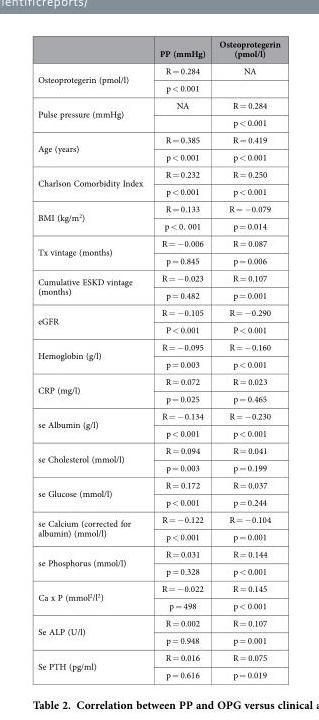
<table><thead><tr><td></td><td>PP (mmHg)</td><td>Osteoprotegerin (pmol/l)</td></tr></thead><tbody><tr><td rowspan="2">Osteoprotegerin (pmol/l)</td><td>R = 0.284</td><td>NA</td></tr><tr><td>p &lt; 0.001</td><td></td></tr><tr><td rowspan="2">Pulse pressure (mmHg)</td><td>NA</td><td>R = 0.284</td></tr><tr><td></td><td>p &lt; 0.001</td></tr><tr><td rowspan="2">Age (years)</td><td>R = 0.385</td><td>R = 0.419</td></tr><tr><td>p &lt; 0.001</td><td>p &lt; 0.001</td></tr><tr><td rowspan="2">Charlson Comorbidity Index</td><td>R = 0.232</td><td>R = 0.250</td></tr><tr><td>p &lt; 0.001</td><td>p &lt; 0.001</td></tr><tr><td rowspan="2">BMI (kg/m<sup>2</sup>)</td><td>R = 0.133</td><td>R = − 0.079</td></tr><tr><td>p &lt; 0. 001</td><td>p = 0.014</td></tr><tr><td rowspan="2">Tx vintage (months)</td><td>R = − 0.006</td><td>R = 0.087</td></tr><tr><td>p = 0.845</td><td>p = 0.006</td></tr><tr><td rowspan="2">Cumulative ESKD vintage (months)</td><td>R = − 0.023</td><td>R = 0.107</td></tr><tr><td>p = 0.482</td><td>p = 0.001</td></tr><tr><td rowspan="2">eGFR</td><td>R = − 0.105</td><td>R = − 0.290</td></tr><tr><td>P &lt; 0.001</td><td>P &lt; 0.001</td></tr><tr><td rowspan="2">Hemoglobin (g/l)</td><td>R = − 0.095</td><td>R = − 0.160</td></tr><tr><td>p = 0.003</td><td>p &lt; 0.001</td></tr><tr><td rowspan="2">CRP (mg/l)</td><td>R = 0.072</td><td>R = 0.023</td></tr><tr><td>p = 0.025</td><td>p = 0.465</td></tr><tr><td rowspan="2">se Albumin (g/l)</td><td>R = − 0.134</td><td>R = − 0.230</td></tr><tr><td>p &lt; 0.001</td><td>p &lt; 0.001</td></tr><tr><td rowspan="2">se Cholesterol (mmol/l)</td><td>R = 0.094</td><td>R = 0.041</td></tr><tr><td>p = 0.003</td><td>p = 0.199</td></tr><tr><td rowspan="2">se Glucose (mmol/l)</td><td>R = 0.172</td><td>R = 0.037</td></tr><tr><td>p &lt; 0.001</td><td>p = 0.244</td></tr><tr><td rowspan="2">se Calcium (corrected for albumin) (mmol/l)</td><td>R = − 0.122</td><td>R = − 0.104</td></tr><tr><td>p &lt; 0.001</td><td>p = 0.001</td></tr><tr><td rowspan="2">se Phosphorus (mmol/l)</td><td>R = 0.031</td><td>R = 0.144</td></tr><tr><td>p = 0.328</td><td>p &lt; 0.001</td></tr><tr><td rowspan="2">Ca x P (mmol<sup>2</sup>/l<sup>2</sup>)</td><td>R = − 0.022</td><td>R = 0.145</td></tr><tr><td>p = 498</td><td>p &lt; 0.001</td></tr><tr><td rowspan="2">Se ALP (U/l)</td><td>R = 0.002</td><td>R = 0.107</td></tr><tr><td>p = 0.948</td><td>p = 0.001</td></tr><tr><td rowspan="2">Se PTH (pg/ml)</td><td>R = 0.016</td><td>R = 0.075</td></tr><tr><td>p = 0.616</td><td>p = 0.019</td></tr></tbody></table>